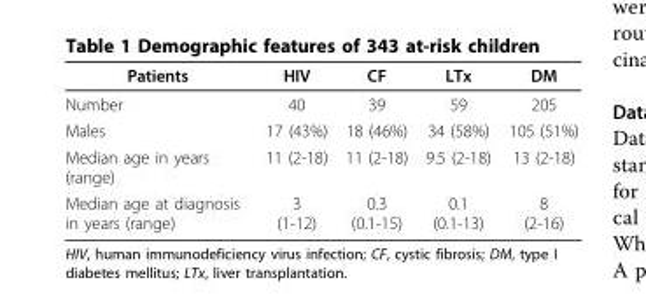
<table><thead><tr><td>Patients</td><td>HIV</td><td>CF</td><td>LTx</td><td>DM</td></tr></thead><tbody><tr><td>Number</td><td>40</td><td>39</td><td>59</td><td>205</td></tr><tr><td>Males</td><td>17 (43%)</td><td>18 (46%)</td><td>34 (58%)</td><td>105 (51%)</td></tr><tr><td>Median age in years (range)</td><td>11 (2-18)</td><td>11 (2-18)</td><td>9.5 (2-18)</td><td>13 (2-18)</td></tr><tr><td>Median age at diagnosis in years (range)</td><td>3 (1-12)</td><td>0.3 (0.1-15)</td><td>0.1 (0.1-13)</td><td>8 (2-16)</td></tr></tbody></table>